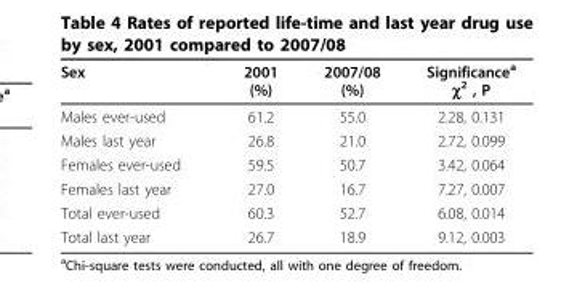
<table><thead><tr><td>Sex</td><td>2001 (%)</td><td>2007/08 (%)</td><td>Significance<sup>a</sup> χ<sup>2</sup> , P</td></tr></thead><tbody><tr><td>Males ever-used</td><td>61.2</td><td>55.0</td><td>2.28, 0.131</td></tr><tr><td>Males last year</td><td>26.8</td><td>21.0</td><td>2.72, 0.099</td></tr><tr><td>Females ever-used</td><td>59.5</td><td>50.7</td><td>3.42, 0.064</td></tr><tr><td>Females last year</td><td>27.0</td><td>16.7</td><td>7.27, 0.007</td></tr><tr><td>Total ever-used</td><td>60.3</td><td>52.7</td><td>6.08, 0.014</td></tr><tr><td>Total last year</td><td>26.7</td><td>18.9</td><td>9.12, 0.003</td></tr></tbody></table>